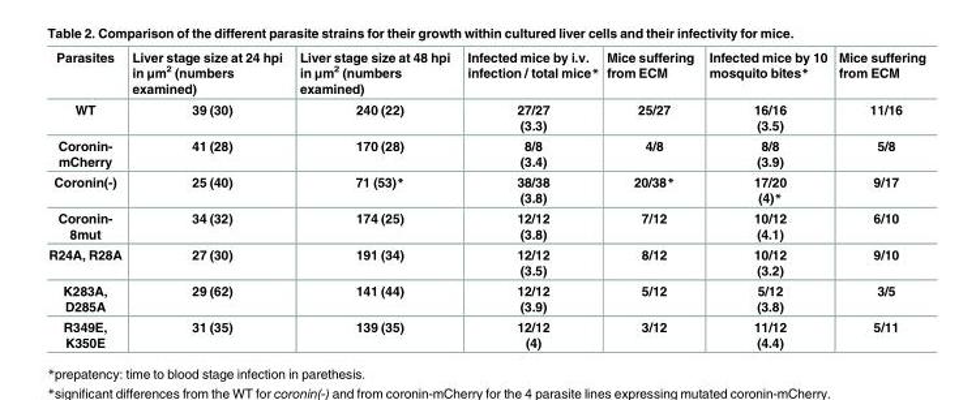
<table><thead><tr><td>Parasites</td><td>Liver stage size at 24 hpi in μm<sup>2</sup> (numbers examined)</td><td>Liver stage size at 48 hpi in μm<sup>2</sup> (numbers examined)</td><td>Infected mice by i.v. infection / total mice*</td><td>Mice suffering from ECM</td><td>Infected mice by 10 mosquito bites*</td><td>Mice suffering from ECM</td></tr></thead><tbody><tr><td>WT</td><td>39 (30)</td><td>240 (22)</td><td>27/27 (3.3)</td><td>25/27</td><td>16/16 (3.5)</td><td>11/16</td></tr><tr><td>Coronin- mCherry</td><td>41 (28)</td><td>170 (28)</td><td>8/8 (3.4)</td><td>4/8</td><td>8/8 (3.9)</td><td>5/8</td></tr><tr><td>Coronin(-)</td><td>25 (40)</td><td>71 (53)*</td><td>38/38 (3.8)</td><td>20/38*</td><td>17/20 (4)*</td><td>9/17</td></tr><tr><td>Coronin- 8mut</td><td>34 (32)</td><td>174 (25)</td><td>12/12 (3.8)</td><td>7/12</td><td>10/12 (4.1)</td><td>6/10</td></tr><tr><td>R24A, R28A</td><td>27 (30)</td><td>191 (34)</td><td>12/12 (3.5)</td><td>8/12</td><td>10/12 (3.2)</td><td>9/10</td></tr><tr><td>K283A, D285A</td><td>29 (62)</td><td>141 (44)</td><td>12/12 (3.9)</td><td>5/12</td><td>5/12 (3.8)</td><td>3/5</td></tr><tr><td>R349E, K350E</td><td>31 (35)</td><td>139 (35)</td><td>12/12 (4)</td><td>3/12</td><td>11/12 (4.4)</td><td>5/11</td></tr></tbody></table>